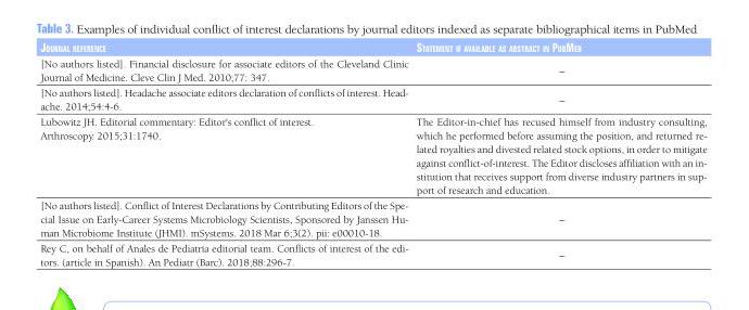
<table><tbody><tr><td>Journal reFerence</td><td>Statement iF available aS abStract in pubmed</td></tr><tr><td>[No authors listed]. Financial disclosure for associate editors of the Cleveland Clinic Journal of Medicine. Cleve Clin J Med. 2010;77: 347.</td><td>–</td></tr><tr><td>[No authors listed]. Headache associate editors declaration of conflicts of interest. Head- ache. 2014;54:4-6.</td><td>–</td></tr><tr><td>Lubowitz JH. Editorial commentary: Editor&#x27;s conflict of interest. Arthroscopy. 2015;31:1740.</td><td>The Editor-in-chief has recused himself from industry consulting, which he performed before assuming the position, and returned re- lated royalties and divested related stock options, in order to mitigate against conflict-of-interest. The Editor discloses affiliation with an in- stitution that receives support from diverse industry partners in sup- port of research and education.</td></tr><tr><td>[No authors listed]. Conflict of Interest Declarations by Contributing Editors of the Spe- cial Issue on Early-Career Systems Microbiology Scientists, Sponsored by Janssen Hu- man Microbiome Institute (JHMI). mSystems. 2018 Mar 6;3(2). pii: e00010-18.</td><td>–</td></tr><tr><td>Rey C, on behalf of Anales de Pediatría editorial team. Conflicts of interest of the edi- tors. (article in Spanish). An Pediatr (Barc). 2018;88:296-7.</td><td>–</td></tr></tbody></table>